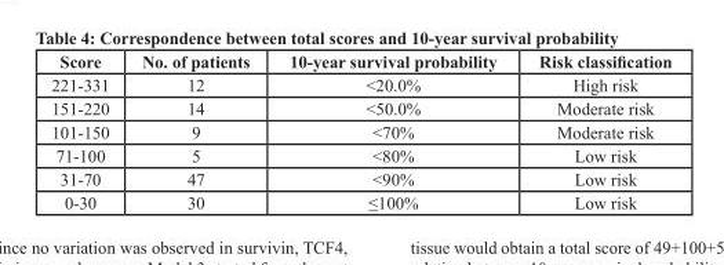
<table><thead><tr><td>Score</td><td>No. of patients</td><td>10-year survival probability</td><td>Risk classification</td></tr></thead><tbody><tr><td>221-331</td><td>12</td><td>&lt;20.0%</td><td>High risk</td></tr><tr><td>151-220</td><td>14</td><td>&lt;50.0%</td><td>Moderate risk</td></tr><tr><td>101-150</td><td>9</td><td>&lt;70%</td><td>Moderate risk</td></tr><tr><td>71-100</td><td>5</td><td>&lt;80%</td><td>Low risk</td></tr><tr><td>31-70</td><td>47</td><td>&lt;90%</td><td>Low risk</td></tr><tr><td>0-30</td><td>30</td><td>≤100%</td><td>Low risk</td></tr></tbody></table>